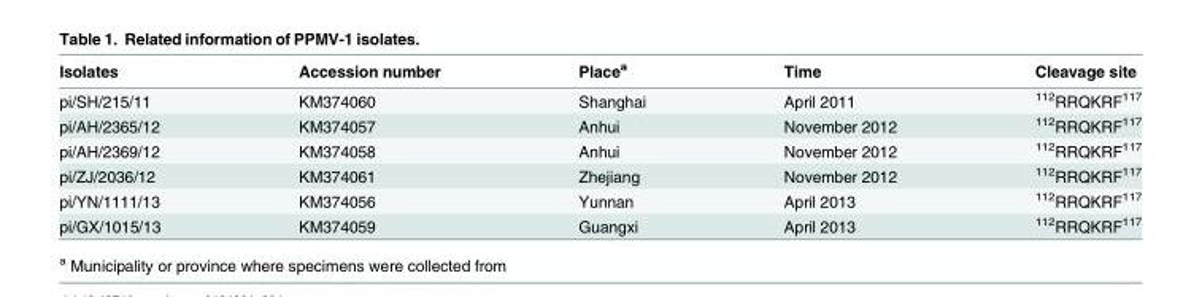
<table><thead><tr><td>Isolates</td><td>Accession number</td><td>Place<sup>a</sup></td><td>Time</td><td>Cleavage site</td></tr></thead><tbody><tr><td>pi/SH/215/11</td><td>KM374060</td><td>Shanghai</td><td>April 2011</td><td><sup>112</sup>RRQKRF<sup>117</sup></td></tr><tr><td>pi/AH/2365/12</td><td>KM374057</td><td>Anhui</td><td>November 2012</td><td><sup>112</sup>RRQKRF<sup>117</sup></td></tr><tr><td>pi/AH/2369/12</td><td>KM374058</td><td>Anhui</td><td>November 2012</td><td><sup>112</sup>RRQKRF<sup>117</sup></td></tr><tr><td>pi/ZJ/2036/12</td><td>KM374061</td><td>Zhejiang</td><td>November 2012</td><td><sup>112</sup>RRQKRF<sup>117</sup></td></tr><tr><td>pi/YN/1111/13</td><td>KM374056</td><td>Yunnan</td><td>April 2013</td><td><sup>112</sup>RRQKRF<sup>117</sup></td></tr><tr><td>pi/GX/1015/13</td><td>KM374059</td><td>Guangxi</td><td>April 2013</td><td><sup>112</sup>RRQKRF<sup>117</sup></td></tr></tbody></table>